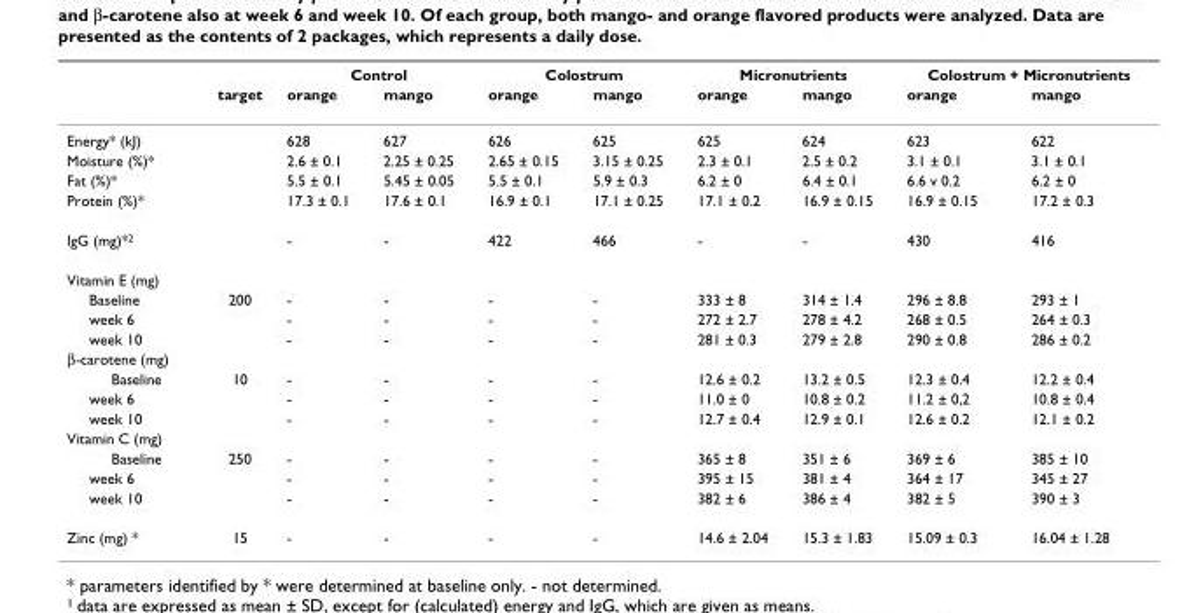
<table><thead><tr><td rowspan="2"></td><td rowspan="2">target</td><td colspan="2">Control</td><td colspan="2">Colostrum</td><td colspan="2">Micronutrients</td><td colspan="2">Colostrum + Micronutrients</td></tr><tr><td>orange</td><td>mango</td><td>orange</td><td>mango</td><td>orange</td><td>mango</td><td>orange</td><td>mango</td></tr></thead><tbody><tr><td>Energy* (kJ)</td><td></td><td>628</td><td>627</td><td>626</td><td>625</td><td>625</td><td>624</td><td>623</td><td>622</td></tr><tr><td>Moisture (%)*</td><td></td><td>2.6 ± 0.1</td><td>2.25 ± 0.25</td><td>2.65 ± 0.15</td><td>3.15 ± 0.25</td><td>2.3 ± 0.1</td><td>2.5 ± 0.2</td><td>3.1 ± 0.1</td><td>3.1 ± 0.1</td></tr><tr><td>Fat (%)*</td><td></td><td>5.5 ± 0.1</td><td>5.45 ± 0.05</td><td>5.5 ± 0.1</td><td>5.9 ± 0.3</td><td>6.2 ± 0</td><td>6.4 ± 0.1</td><td>6.6 v 0.2</td><td>6.2 ± 0</td></tr><tr><td>Protein (%)*</td><td></td><td>17.3 ± 0.1</td><td>17.6 ± 0.1</td><td>16.9 ± 0.1</td><td>17.1 ± 0.25</td><td>17.1 ± 0.2</td><td>16.9 ± 0.15</td><td>16.9 ± 0.15</td><td>17.2 ± 0.3</td></tr><tr><td>IgG (mg)*<sup>2</sup></td><td></td><td>-</td><td>-</td><td>422</td><td>466</td><td>-</td><td>-</td><td>430</td><td>416</td></tr><tr><td colspan="10">Vitamin E (mg)</td></tr><tr><td>Baseline</td><td>200</td><td>-</td><td>-</td><td>-</td><td>-</td><td>333 ± 8</td><td>314 ± 1.4</td><td>296 ± 8.8</td><td>293 ± 1</td></tr><tr><td>week 6</td><td></td><td>-</td><td>-</td><td>-</td><td>-</td><td>272 ± 2.7</td><td>278 ± 4.2</td><td>268 ± 0.5</td><td>264 ± 0.3</td></tr><tr><td>week 10</td><td></td><td>-</td><td>-</td><td>-</td><td>-</td><td>281 ± 0.3</td><td>279 ± 2.8</td><td>290 ± 0.8</td><td>286 ± 0.2</td></tr><tr><td colspan="10">β-carotene (mg)</td></tr><tr><td>Baseline</td><td>10</td><td>-</td><td>-</td><td>-</td><td>-</td><td>12.6 ± 0.2</td><td>13.2 ± 0.5</td><td>12.3 ± 0.4</td><td>12.2 ± 0.4</td></tr><tr><td>week 6</td><td></td><td>-</td><td>-</td><td>-</td><td>-</td><td>11.0 ± 0</td><td>10.8 ± 0.2</td><td>11.2 ± 0,2</td><td>10.8 ± 0.4</td></tr><tr><td>week 10</td><td></td><td>-</td><td>-</td><td>-</td><td>-</td><td>12.7 ± 0.4</td><td>12.9 ± 0.1</td><td>12.6 ± 0.2</td><td>12.1 ± 0.2</td></tr><tr><td colspan="10">Vitamin C (mg)</td></tr><tr><td>Baseline</td><td>250</td><td>-</td><td>-</td><td>-</td><td>-</td><td>365 ± 8</td><td>351 ± 6</td><td>369 ± 6</td><td>385 ± 10</td></tr><tr><td>week 6</td><td></td><td>-</td><td>-</td><td>-</td><td>-</td><td>395 ± 15</td><td>381 ± 4</td><td>364 ± 17</td><td>345 ± 27</td></tr><tr><td>week 10</td><td></td><td>-</td><td>-</td><td>-</td><td>-</td><td>382 ± 6</td><td>386 ± 4</td><td>382 ± 5</td><td>390 ± 3</td></tr><tr><td>Zinc (mg) *</td><td>15</td><td>-</td><td>-</td><td>-</td><td>-</td><td>14.6 ± 2.04</td><td>15.3 ± 1.83</td><td>15.09 ± 0.3</td><td>16.04 ± 1.28</td></tr></tbody></table>